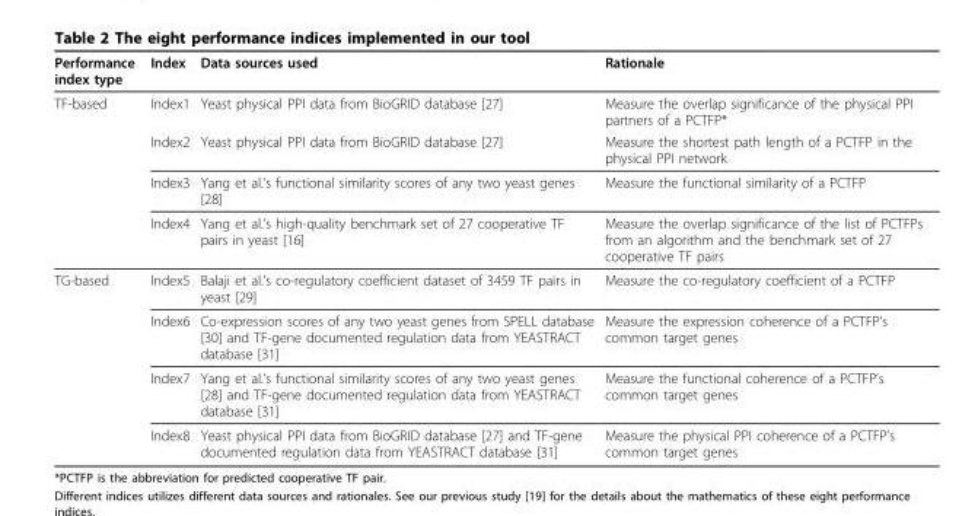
<table><thead><tr><td>Performance index type</td><td>Index</td><td>Data sources used</td><td>Rationale</td></tr></thead><tbody><tr><td rowspan="4">TF-based</td><td>Index1</td><td>Yeast physical PPI data from BioGRID database [27]</td><td>Measure the overlap significance of the physical PPI partners of a PCTFP*</td></tr><tr><td>Index2</td><td>Yeast physical PPI data from BioGRID database [27]</td><td>Measure the shortest path length of a PCTFP in the physical PPI network</td></tr><tr><td>Index3</td><td>Yang et al.’s functional similarity scores of any two yeast genes [28]</td><td>Measure the functional similarity of a PCTFP</td></tr><tr><td>Index4</td><td>Yang et al.’s high-quality benchmark set of 27 cooperative TF pairs in yeast [16]</td><td>Measure the overlap significance of the list of PCTFPs from an algorithm and the benchmark set of 27 cooperative TF pairs</td></tr><tr><td rowspan="4">TG-based</td><td>Index5</td><td>Balaji et al.’s co-regulatory coefficient dataset of 3459 TF pairs in yeast [29]</td><td>Measure the co-regulatory coefficient of a PCTFP</td></tr><tr><td>Index6</td><td>Co-expression scores of any two yeast genes from SPELL database [30] and TF-gene documented regulation data from YEASTRACT database [31]</td><td>Measure the expression coherence of a PCTFP’s common target genes</td></tr><tr><td>Index7</td><td>Yang et al.’s functional similarity scores of any two yeast genes [28] and TF-gene documented regulation data from YEASTRACT database [31]</td><td>Measure the functional coherence of a PCTFP’s common target genes</td></tr><tr><td>Index8</td><td>Yeast physical PPI data from BioGRID database [27] and TF-gene documented regulation data from YEASTRACT database [31]</td><td>Measure the physical PPI coherence of a PCTFP’s common target genes</td></tr></tbody></table>